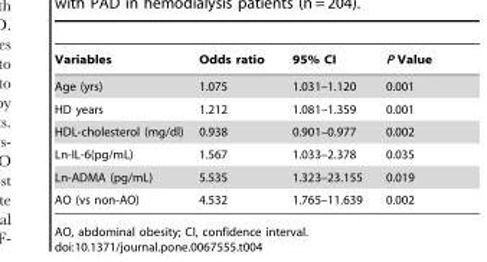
<table><thead><tr><td>Variables</td><td>Odds ratio</td><td>95% CI</td><td>P Value</td></tr></thead><tbody><tr><td>Age (yrs)</td><td>1.075</td><td>1.031–1.120</td><td>0.001</td></tr><tr><td>HD years</td><td>1.212</td><td>1.081–1.359</td><td>0.001</td></tr><tr><td>HDL-cholesterol (mg/dl)</td><td>0.938</td><td>0.901–0.977</td><td>0.002</td></tr><tr><td>Ln-IL-6(pg/mL)</td><td>1.567</td><td>1.033–2.378</td><td>0.035</td></tr><tr><td>Ln-ADMA (pg/mL)</td><td>5.535</td><td>1.323–23.155</td><td>0.019</td></tr><tr><td>AO (vs non-AO)</td><td>4.532</td><td>1.765–11.639</td><td>0.002</td></tr></tbody></table>